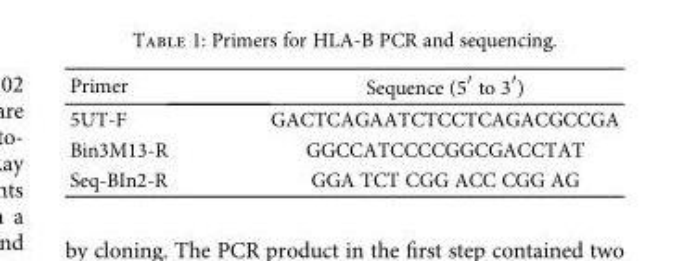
<table><thead><tr><td>Primer</td><td>Sequence (5′ to 3′)</td></tr></thead><tbody><tr><td>5UT-F</td><td>GACTCAGAATCTCCTCAGACGCCGA</td></tr><tr><td>Bin3M13-R</td><td>GGCCATCCCCGGCGACCTAT</td></tr><tr><td>Seq-BIn2-R</td><td>GGA TCT CGG ACC CGG AG</td></tr></tbody></table>